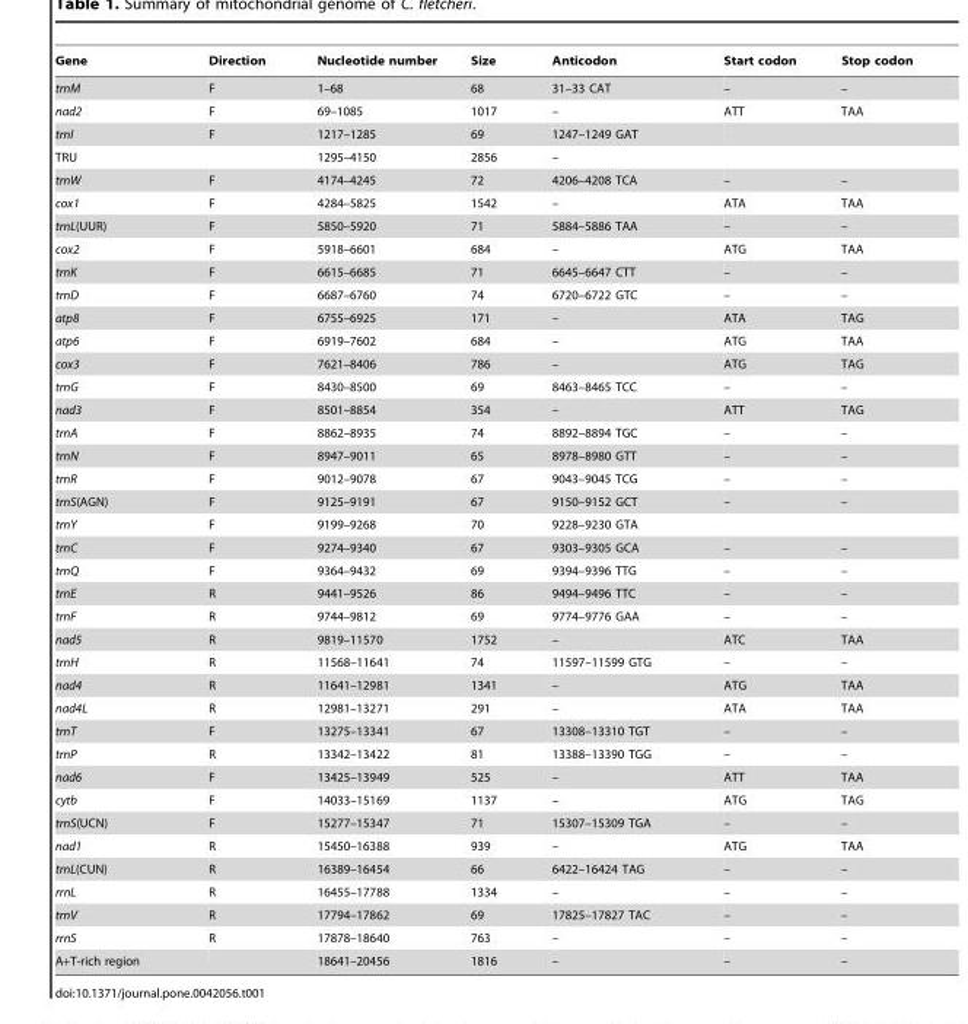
<table><thead><tr><td>Gene</td><td>Direction</td><td>Nucleotide number</td><td>Size</td><td>Anticodon</td><td>Start codon</td><td>Stop codon</td></tr></thead><tbody><tr><td>trnM</td><td>F</td><td>1–68</td><td>68</td><td>31–33 CAT</td><td>–</td><td>–</td></tr><tr><td>nad2</td><td>F</td><td>69–1085</td><td>1017</td><td>–</td><td>ATT</td><td>TAA</td></tr><tr><td>trnI</td><td>F</td><td>1217–1285</td><td>69</td><td>1247–1249 GAT</td><td></td><td></td></tr><tr><td>TRU</td><td></td><td>1295–4150</td><td>2856</td><td>–</td><td></td><td></td></tr><tr><td>trnW</td><td>F</td><td>4174–4245</td><td>72</td><td>4206–4208 TCA</td><td>–</td><td>–</td></tr><tr><td>cox1</td><td>F</td><td>4284–5825</td><td>1542</td><td>–</td><td>ATA</td><td>TAA</td></tr><tr><td>trnL(UUR)</td><td>F</td><td>5850–5920</td><td>71</td><td>5884–5886 TAA</td><td>–</td><td>–</td></tr><tr><td>cox2</td><td>F</td><td>5918–6601</td><td>684</td><td>–</td><td>ATG</td><td>TAA</td></tr><tr><td>trnK</td><td>F</td><td>6615–6685</td><td>71</td><td>6645–6647 CTT</td><td>–</td><td>–</td></tr><tr><td>trnD</td><td>F</td><td>6687–6760</td><td>74</td><td>6720–6722 GTC</td><td>–</td><td>–</td></tr><tr><td>atp8</td><td>F</td><td>6755–6925</td><td>171</td><td>–</td><td>ATA</td><td>TAG</td></tr><tr><td>atp6</td><td>F</td><td>6919–7602</td><td>684</td><td>–</td><td>ATG</td><td>TAA</td></tr><tr><td>cox3</td><td>F</td><td>7621–8406</td><td>786</td><td>–</td><td>ATG</td><td>TAG</td></tr><tr><td>trnG</td><td>F</td><td>8430–8500</td><td>69</td><td>8463–8465 TCC</td><td>–</td><td>–</td></tr><tr><td>nad3</td><td>F</td><td>8501–8854</td><td>354</td><td>–</td><td>ATT</td><td>TAG</td></tr><tr><td>trnA</td><td>F</td><td>8862–8935</td><td>74</td><td>8892–8894 TGC</td><td>–</td><td>–</td></tr><tr><td>trnN</td><td>F</td><td>8947–9011</td><td>65</td><td>8978–8980 GTT</td><td>–</td><td>–</td></tr><tr><td>trnR</td><td>F</td><td>9012–9078</td><td>67</td><td>9043–9045 TCG</td><td>–</td><td>–</td></tr><tr><td>trnS(AGN)</td><td>F</td><td>9125–9191</td><td>67</td><td>9150–9152 GCT</td><td>–</td><td>–</td></tr><tr><td>trnY</td><td>F</td><td>9199–9268</td><td>70</td><td>9228–9230 GTA</td><td></td><td></td></tr><tr><td>trnC</td><td>F</td><td>9274–9340</td><td>67</td><td>9303–9305 GCA</td><td>–</td><td>–</td></tr><tr><td>trnQ</td><td>F</td><td>9364–9432</td><td>69</td><td>9394–9396 TTG</td><td>–</td><td>–</td></tr><tr><td>trnE</td><td>R</td><td>9441–9526</td><td>86</td><td>9494–9496 TTC</td><td>–</td><td>–</td></tr><tr><td>trnF</td><td>R</td><td>9744–9812</td><td>69</td><td>9774–9776 GAA</td><td>–</td><td>–</td></tr><tr><td>nad5</td><td>R</td><td>9819–11570</td><td>1752</td><td>–</td><td>ATC</td><td>TAA</td></tr><tr><td>trnH</td><td>R</td><td>11568–11641</td><td>74</td><td>11597–11599 GTG</td><td>–</td><td>–</td></tr><tr><td>nad4</td><td>R</td><td>11641–12981</td><td>1341</td><td>–</td><td>ATG</td><td>TAA</td></tr><tr><td>nad4L</td><td>R</td><td>12981–13271</td><td>291</td><td>–</td><td>ATA</td><td>TAA</td></tr><tr><td>trnT</td><td>F</td><td>13275–13341</td><td>67</td><td>13308–13310 TGT</td><td>–</td><td>–</td></tr><tr><td>trnP</td><td>R</td><td>13342–13422</td><td>81</td><td>13388–13390 TGG</td><td>–</td><td>–</td></tr><tr><td>nad6</td><td>F</td><td>13425–13949</td><td>525</td><td>–</td><td>ATT</td><td>TAA</td></tr><tr><td>cytb</td><td>F</td><td>14033–15169</td><td>1137</td><td>–</td><td>ATG</td><td>TAG</td></tr><tr><td>trnS(UCN)</td><td>F</td><td>15277–15347</td><td>71</td><td>15307–15309 TGA</td><td>–</td><td>–</td></tr><tr><td>nad1</td><td>R</td><td>15450–16388</td><td>939</td><td>–</td><td>ATG</td><td>TAA</td></tr><tr><td>trnL(CUN)</td><td>R</td><td>16389–16454</td><td>66</td><td>6422–16424 TAG</td><td>–</td><td>–</td></tr><tr><td>rrnL</td><td>R</td><td>16455–17788</td><td>1334</td><td>–</td><td>–</td><td>–</td></tr><tr><td>trnV</td><td>R</td><td>17794–17862</td><td>69</td><td>17825–17827 TAC</td><td>–</td><td>–</td></tr><tr><td>rrnS</td><td>R</td><td>17878–18640</td><td>763</td><td>–</td><td>–</td><td>–</td></tr><tr><td>A+T-rich region</td><td></td><td>18641–20456</td><td>1816</td><td>–</td><td>–</td><td>–</td></tr></tbody></table>